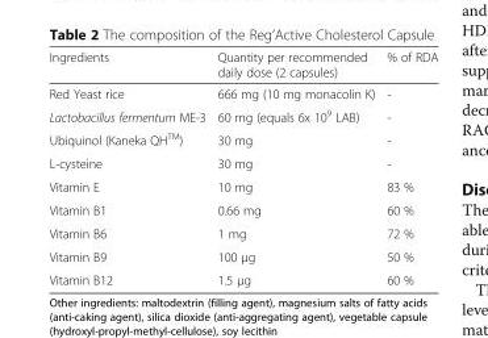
<table><thead><tr><td>Ingredients</td><td>Quantity per recommended daily dose (2 capsules)</td><td>% of RDA</td></tr></thead><tbody><tr><td>Red Yeast rice</td><td>666 mg (10 mg monacolin K)</td><td>-</td></tr><tr><td>Lactobacillus fermentum ME-3</td><td>60 mg (equals 6x 10<sup>9</sup> LAB)</td><td>-</td></tr><tr><td>Ubiquinol (Kaneka QH<sup>TM</sup>)</td><td>30 mg</td><td>-</td></tr><tr><td>L-cysteine</td><td>30 mg</td><td>-</td></tr><tr><td>Vitamin E</td><td>10 mg</td><td>83 %</td></tr><tr><td>Vitamin B1</td><td>0.66 mg</td><td>60 %</td></tr><tr><td>Vitamin B6</td><td>1 mg</td><td>72 %</td></tr><tr><td>Vitamin B9</td><td>100 μg</td><td>50 %</td></tr><tr><td>Vitamin B12</td><td>1.5 μg</td><td>60 %</td></tr></tbody></table>